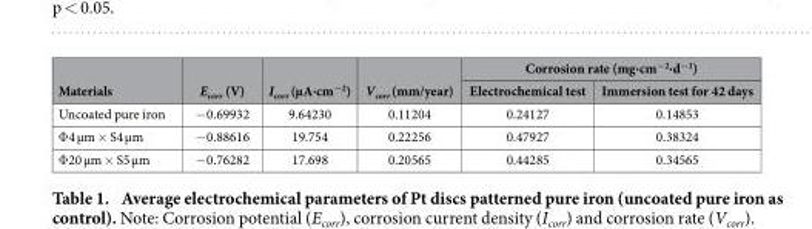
<table><thead><tr><td rowspan="2">Materials</td><td rowspan="2">E<sub>corr</sub> (V)</td><td rowspan="2">I<sub>corr</sub> (μA·cm<sup>−2</sup>)</td><td rowspan="2">V<sub>corr</sub> (mm/year)</td><td colspan="2">Corrosion rate (mg·cm<sup>−2</sup>·d<sup>−1</sup>)</td></tr><tr><td>Electrochemical test</td><td>Immersion test for 42 days</td></tr></thead><tbody><tr><td>Uncoated pure iron</td><td>− 0.69932</td><td>9.64230</td><td>0.11204</td><td>0.24127</td><td>0.14853</td></tr><tr><td>Φ 4 μm × S4 μm</td><td>− 0.88616</td><td>19.754</td><td>0.22256</td><td>0.47927</td><td>0.38324</td></tr><tr><td>Φ 20 μm × S5 μm</td><td>− 0.76282</td><td>17.698</td><td>0.20565</td><td>0.44285</td><td>0.34565</td></tr></tbody></table>